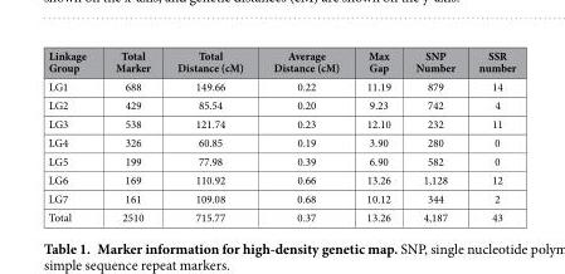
<table><thead><tr><td>Linkage Group</td><td>Total Marker</td><td>Total Distance (cM)</td><td>Average Distance (cM)</td><td>Max Gap</td><td>SNP Number</td><td>SSR number</td></tr></thead><tbody><tr><td>LG1</td><td>688</td><td>149.66</td><td>0.22</td><td>11.19</td><td>879</td><td>14</td></tr><tr><td>LG2</td><td>429</td><td>85.54</td><td>0.20</td><td>9.23</td><td>742</td><td>4</td></tr><tr><td>LG3</td><td>538</td><td>121.74</td><td>0.23</td><td>12.10</td><td>232</td><td>11</td></tr><tr><td>LG4</td><td>326</td><td>60.85</td><td>0.19</td><td>3.90</td><td>280</td><td>0</td></tr><tr><td>LG5</td><td>199</td><td>77.98</td><td>0.39</td><td>6.90</td><td>582</td><td>0</td></tr><tr><td>LG6</td><td>169</td><td>110.92</td><td>0.66</td><td>13.26</td><td>1,128</td><td>12</td></tr><tr><td>LG7</td><td>161</td><td>109.08</td><td>0.68</td><td>10.12</td><td>344</td><td>2</td></tr><tr><td>Total</td><td>2510</td><td>715.77</td><td>0.37</td><td>13.26</td><td>4,187</td><td>43</td></tr></tbody></table>